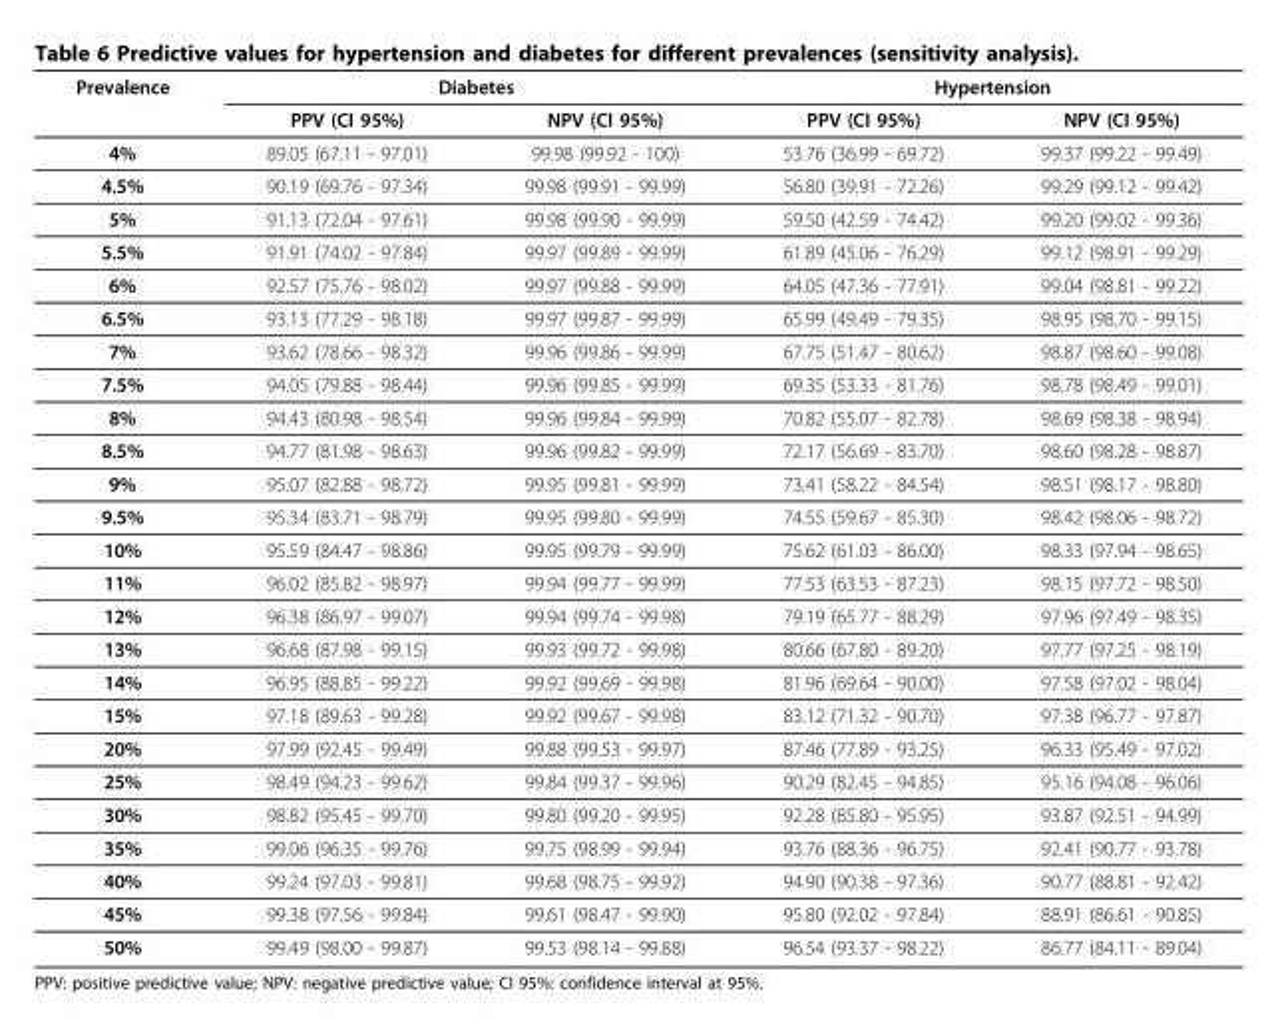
<table><thead><tr><td rowspan="2">Prevalence</td><td colspan="2">Diabetes</td><td colspan="2">Hypertension</td></tr><tr><td>PPV (CI 95%)</td><td>NPV (CI 95%)</td><td>PPV (CI 95%)</td><td>NPV (CI 95%)</td></tr></thead><tbody><tr><td>4%</td><td>89.05 (67.11 - 97.01)</td><td>99.98 (99.92 - 100)</td><td>53.76 (36.99 - 69.72)</td><td>99.37 (99.22 - 99.49)</td></tr><tr><td>4.5%</td><td>90.19 (69.76 - 97.34)</td><td>99.98 (99.91 - 99.99)</td><td>56.80 (39.91 - 72.26)</td><td>99.29 (99.12 - 99.42)</td></tr><tr><td>5%</td><td>91.13 (72.04 - 97.61)</td><td>99.98 (99.90 - 99.99)</td><td>59.50 (42.59 - 74.42)</td><td>99.20 (99.02 - 99.36)</td></tr><tr><td>5.5%</td><td>91.91 (74.02 - 97.84)</td><td>99.97 (99.89 - 99.99)</td><td>61.89 (45.06 - 76.29)</td><td>99.12 (98.91 - 99.29)</td></tr><tr><td>6%</td><td>92.57 (75.76 - 98.02)</td><td>99.97 (99.88 - 99.99)</td><td>64.05 (47.36 - 77.91)</td><td>99.04 (98.81 - 99.22)</td></tr><tr><td>6.5%</td><td>93.13 (77.29 - 98.18)</td><td>99.97 (99.87 - 99.99)</td><td>65.99 (49.49 - 79.35)</td><td>98.95 (98.70 - 99.15)</td></tr><tr><td>7%</td><td>93.62 (78.66 - 98.32)</td><td>99.96 (99.86 - 99.99)</td><td>67.75 (51.47 - 80.62)</td><td>98.87 (98.60 - 99.08)</td></tr><tr><td>7.5%</td><td>94.05 (79.88 - 98.44)</td><td>99.96 (99.85 - 99.99)</td><td>69.35 (53.33 - 81.76)</td><td>98.78 (98.49 - 99.01)</td></tr><tr><td>8%</td><td>94.43 (80.98 - 98.54)</td><td>99.96 (99.84 - 99.99)</td><td>70.82 (55.07 - 82.78)</td><td>98.69 (98.38 - 98.94)</td></tr><tr><td>8.5%</td><td>94.77 (81.98 - 98.63)</td><td>99.96 (99.82 - 99.99)</td><td>72.17 (56.69 - 83.70)</td><td>98.60 (98.28 - 98.87)</td></tr><tr><td>9%</td><td>95.07 (82.88 - 98.72)</td><td>99.95 (99.81 - 99.99)</td><td>73.41 (58.22 - 84.54)</td><td>98.51 (98.17 - 98.80)</td></tr><tr><td>9.5%</td><td>95.34 (83.71 - 98.79)</td><td>99.95 (99.80 - 99.99)</td><td>74.55 (59.67 - 85.30)</td><td>98.42 (98.06 - 98.72)</td></tr><tr><td>10%</td><td>95.59 (84.47 - 98.86)</td><td>99.95 (99.79 - 99.99)</td><td>75.62 (61.03 - 86.00)</td><td>98.33 (97.94 - 98.65)</td></tr><tr><td>11%</td><td>96.02 (85.82 - 98.97)</td><td>99.94 (99.77 - 99.99)</td><td>77.53 (63.53 - 87.23)</td><td>98.15 (97.72 - 98.50)</td></tr><tr><td>12%</td><td>96.38 (86.97 - 99.07)</td><td>99.94 (99.74 - 99.98)</td><td>79.19 (65.77 - 88.29)</td><td>97.96 (97.49 - 98.35)</td></tr><tr><td>13%</td><td>96.68 (87.98 - 99.15)</td><td>99.93 (99.72 - 99.98)</td><td>80.66 (67.80 - 89.20)</td><td>97.77 (97.25 - 98.19)</td></tr><tr><td>14%</td><td>96.95 (88.85 - 99.22)</td><td>99.92 (99.69 - 99.98)</td><td>81.96 (69.64 - 90.00)</td><td>97.58 (97.02 - 98.04)</td></tr><tr><td>15%</td><td>97.18 (89.63 - 99.28)</td><td>99.92 (99.67 - 99.98)</td><td>83.12 (71.32 - 90.70)</td><td>97.38 (96.77 - 97.87)</td></tr><tr><td>20%</td><td>97.99 (92.45 - 99.49)</td><td>99.88 (99.53 - 99.97)</td><td>87.46 (77.89 - 93.25)</td><td>96.33 (95.49 - 97.02)</td></tr><tr><td>25%</td><td>98.49 (94.23 - 99.62)</td><td>99.84 (99.37 - 99.96)</td><td>90.29 (82.45 - 94.85)</td><td>95.16 (94.08 - 96.06)</td></tr><tr><td>30%</td><td>98.82 (95.45 - 99.70)</td><td>99.80 (99.20 - 99.95)</td><td>92.28 (85.80 - 95.95)</td><td>93.87 (92.51 - 94.99)</td></tr><tr><td>35%</td><td>99.06 (96.35 - 99.76)</td><td>99.75 (98.99 - 99.94)</td><td>93.76 (88.36 - 96.75)</td><td>92.41 (90.77 - 93.78)</td></tr><tr><td>40%</td><td>99.24 (97.03 - 99.81)</td><td>99.68 (98.75 - 99.92)</td><td>94.90 (90.38 - 97.36)</td><td>90.77 (88.81 - 92.42)</td></tr><tr><td>45%</td><td>99.38 (97.56 - 99.84)</td><td>99.61 (98.47 - 99.90)</td><td>95.80 (92.02 - 97.84)</td><td>88.91 (86.61 - 90.85)</td></tr><tr><td>50%</td><td>99.49 (98.00 - 99.87)</td><td>99.53 (98.14 - 99.88)</td><td>96.54 (93.37 - 98.22)</td><td>86.77 (84.11 - 89.04)</td></tr></tbody></table>